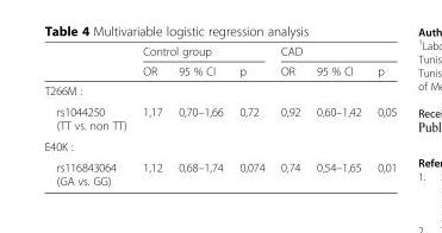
<table><thead><tr><td rowspan="2"></td><td colspan="3">Control group</td><td colspan="3">CAD</td></tr><tr><td>OR</td><td>95 % CI</td><td>p</td><td>OR</td><td>95 % CI</td><td>p</td></tr></thead><tbody><tr><td colspan="7">T266M :</td></tr><tr><td>rs1044250 (TT vs. non TT)</td><td>1,17</td><td>0,70–1,66</td><td>0,72</td><td>0,92</td><td>0,60–1,42</td><td>0,05</td></tr><tr><td colspan="7">E40K :</td></tr><tr><td>rs116843064 (GA vs. GG)</td><td>1,12</td><td>0,68–1,74</td><td>0,074</td><td>0,74</td><td>0,54–1,65</td><td>0,01</td></tr></tbody></table>